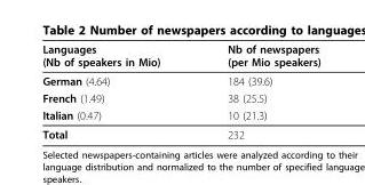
<table><thead><tr><td>Languages (Nb of speakers in Mio)</td><td>Nb of newspapers (per Mio speakers)</td></tr></thead><tbody><tr><td>German (4.64)</td><td>184 (39.6)</td></tr><tr><td>French (1.49)</td><td>38 (25.5)</td></tr><tr><td>Italian (0.47)</td><td>10 (21.3)</td></tr><tr><td>Total</td><td>232</td></tr></tbody></table>